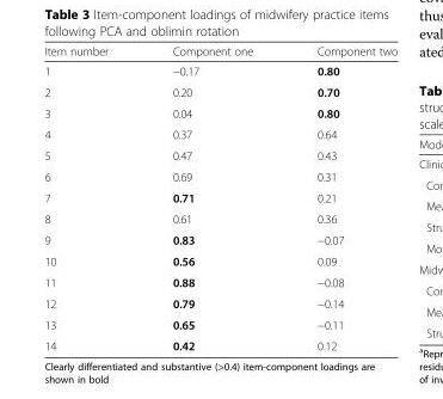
<table><thead><tr><td>Item number</td><td>Component one</td><td>Component two</td></tr></thead><tbody><tr><td>1</td><td>−0.17</td><td>0.80</td></tr><tr><td>2</td><td>0.20</td><td>0.70</td></tr><tr><td>3</td><td>0.04</td><td>0.80</td></tr><tr><td>4</td><td>0.37</td><td>0.64</td></tr><tr><td>5</td><td>0.47</td><td>0.43</td></tr><tr><td>6</td><td>0.69</td><td>0.31</td></tr><tr><td>7</td><td>0.71</td><td>0.21</td></tr><tr><td>8</td><td>0.61</td><td>0.36</td></tr><tr><td>9</td><td>0.83</td><td>−0.07</td></tr><tr><td>10</td><td>0.56</td><td>0.09</td></tr><tr><td>11</td><td>0.88</td><td>−0.08</td></tr><tr><td>12</td><td>0.79</td><td>−0.14</td></tr><tr><td>13</td><td>0.65</td><td>−0.11</td></tr><tr><td>14</td><td>0.42</td><td>0.12</td></tr></tbody></table>